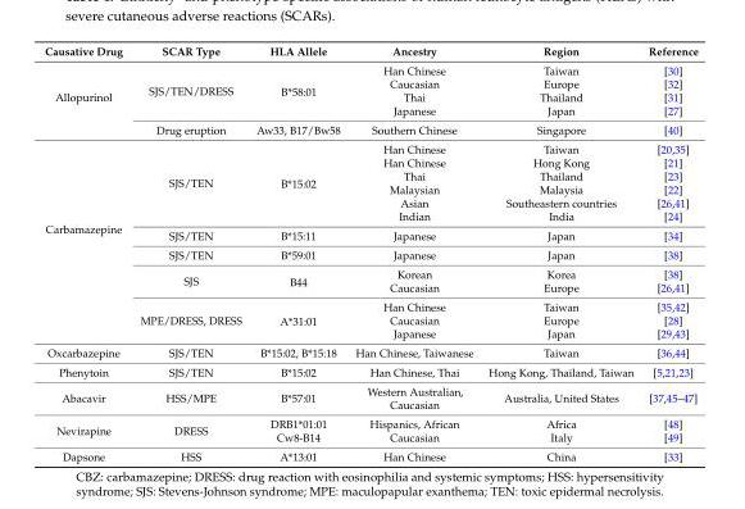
<table><thead><tr><td>Causative Drug</td><td>SCAR Type</td><td>HLA Allele</td><td>Ancestry</td><td>Region</td><td>Reference</td></tr></thead><tbody><tr><td rowspan="5">Allopurinol</td><td rowspan="4">SJS/TEN/DRESS</td><td rowspan="4">B*58:01</td><td>Han Chinese</td><td>Taiwan</td><td>[30]</td></tr><tr><td>Caucasian</td><td>Europe</td><td>[32]</td></tr><tr><td>Thai</td><td>Thailand</td><td>[31]</td></tr><tr><td>Japanese</td><td>Japan</td><td>[27]</td></tr><tr><td>Drug eruption</td><td>Aw33, B17/Bw58</td><td>Southern Chinese</td><td>Singapore</td><td>[40]</td></tr><tr><td rowspan="13">Carbamazepine</td><td rowspan="6">SJS/TEN</td><td rowspan="6">B*15:02</td><td>Han Chinese</td><td>Taiwan</td><td>[20,35]</td></tr><tr><td>Han Chinese</td><td>Hong Kong</td><td>[21]</td></tr><tr><td>Thai</td><td>Thailand</td><td>[23]</td></tr><tr><td>Malaysian</td><td>Malaysia</td><td>[22]</td></tr><tr><td>Asian</td><td>Southeastern countries</td><td>[26,41]</td></tr><tr><td>Indian</td><td>India</td><td>[24]</td></tr><tr><td>SJS/TEN</td><td>B*15:11</td><td>Japanese</td><td>Japan</td><td>[34]</td></tr><tr><td>SJS/TEN</td><td>B*59:01</td><td>Japanese</td><td>Japan</td><td>[38]</td></tr><tr><td rowspan="2">SJS</td><td rowspan="2">B44</td><td>Korean</td><td>Korea</td><td>[38]</td></tr><tr><td>Caucasian</td><td>Europe</td><td>[26,41]</td></tr><tr><td rowspan="3">MPE/DRESS, DRESS</td><td rowspan="3">A*31:01</td><td>Han Chinese</td><td>Taiwan</td><td>[35,42]</td></tr><tr><td>Caucasian</td><td>Europe</td><td>[28]</td></tr><tr><td>Japanese</td><td>Japan</td><td>[29,43]</td></tr><tr><td>Oxcarbazepine</td><td>SJS/TEN</td><td>B*15:02, B*15:18</td><td>Han Chinese, Taiwanese</td><td>Taiwan</td><td>[36,44]</td></tr><tr><td>Phenytoin</td><td>SJS/TEN</td><td>B*15:02</td><td>Han Chinese, Thai</td><td>Hong Kong, Thailand, Taiwan</td><td>[5,21,23]</td></tr><tr><td>Abacavir</td><td>HSS/MPE</td><td>B*57:01</td><td>Western Australian, Caucasian</td><td>Australia, United States</td><td>[37,45–47]</td></tr><tr><td>Nevirapine</td><td>DRESS</td><td>DRB1*01:01 Cw8-B14</td><td>Hispanics, African Caucasian</td><td>Africa Italy</td><td>[48] [49]</td></tr><tr><td>Dapsone</td><td>HSS</td><td>A*13:01</td><td>Han Chinese</td><td>China</td><td>[33]</td></tr></tbody></table>